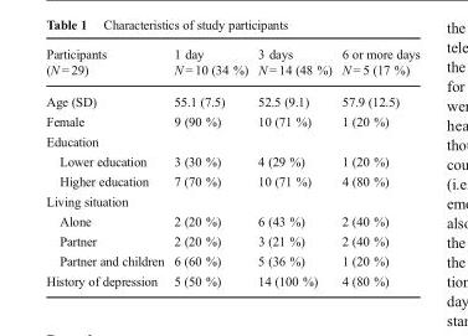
<table><thead><tr><td rowspan="2">Participants (N = 29)</td><td rowspan="2">1 day N = 10 (34 %)</td><td rowspan="2">3 days N = 14 (48 %)</td><td rowspan="2">6 or more days N = 5 (17 %)</td></tr><tr></tr></thead><tbody><tr><td>Age (SD)</td><td>55.1 (7.5)</td><td>52.5 (9.1)</td><td>57.9 (12.5)</td></tr><tr><td>Female</td><td>9 (90 %)</td><td>10 (71 %)</td><td>1 (20 %)</td></tr><tr><td colspan="4">Education</td></tr><tr><td>Lower education</td><td>3 (30 %)</td><td>4 (29 %)</td><td>1 (20 %)</td></tr><tr><td>Higher education</td><td>7 (70 %)</td><td>10 (71 %)</td><td>4 (80 %)</td></tr><tr><td colspan="4">Living situation</td></tr><tr><td>Alone</td><td>2 (20 %)</td><td>6 (43 %)</td><td>2 (40 %)</td></tr><tr><td>Partner</td><td>2 (20 %)</td><td>3 (21 %)</td><td>2 (40 %)</td></tr><tr><td>Partner and children</td><td>6 (60 %)</td><td>5 (36 %)</td><td>1 (20 %)</td></tr><tr><td>History of depression</td><td>5 (50 %)</td><td>14 (100 %)</td><td>4 (80 %)</td></tr></tbody></table>